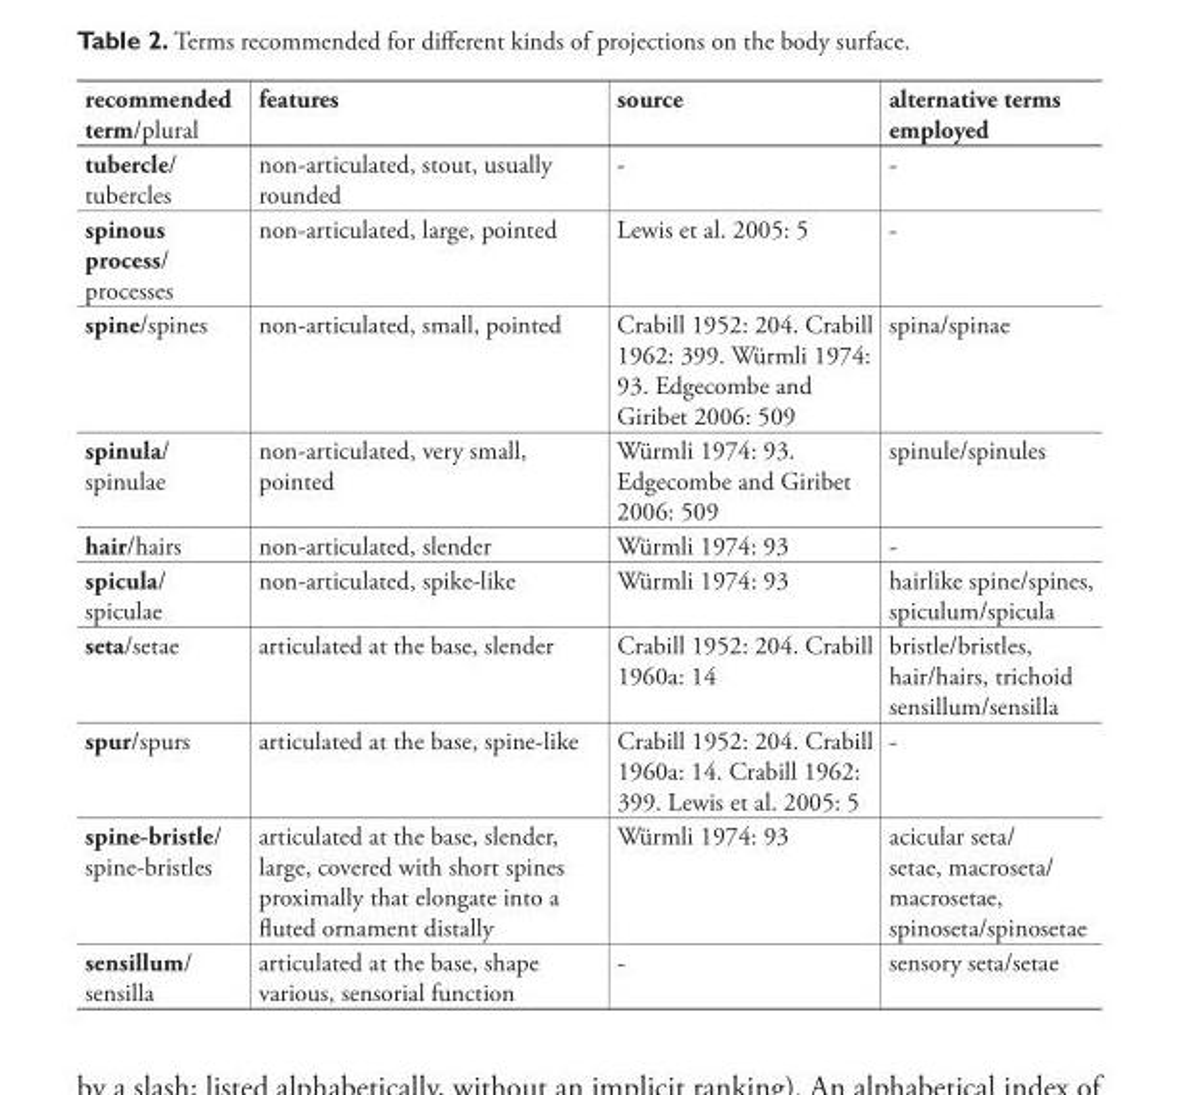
<table><thead><tr><td>recommended term/plural</td><td>features</td><td>source</td><td>alternative terms employed</td></tr></thead><tbody><tr><td>tubercle/ tubercles</td><td>non-articulated, stout, usually rounded</td><td>-</td><td>-</td></tr><tr><td>spinous process/ processes</td><td>non-articulated, large, pointed</td><td>Lewis et al. 2005: 5</td><td>-</td></tr><tr><td>spine/spines</td><td>non-articulated, small, pointed</td><td>Crabill 1952: 204. Crabill 1962: 399. Würmli 1974: 93. Edgecombe and Giribet 2006: 509</td><td>spina/spinae</td></tr><tr><td>spinula/ spinulae</td><td>non-articulated, very small, pointed</td><td>Würmli 1974: 93. Edgecombe and Giribet 2006: 509</td><td>spinule/spinules</td></tr><tr><td>hair/hairs</td><td>non-articulated, slender</td><td>Würmli 1974: 93</td><td>-</td></tr><tr><td>spicula/ spiculae</td><td>non-articulated, spike-like</td><td>Würmli 1974: 93</td><td>hairlike spine/spines, spiculum/spicula</td></tr><tr><td>seta/setae</td><td>articulated at the base, slender</td><td>Crabill 1952: 204. Crabill 1960a: 14</td><td>bristle/bristles, hair/hairs, trichoid sensillum/sensilla</td></tr><tr><td>spur/spurs</td><td>articulated at the base, spine-like</td><td>Crabill 1952: 204. Crabill 1960a: 14. Crabill 1962: 399. Lewis et al. 2005: 5</td><td>-</td></tr><tr><td>spine-bristle/ spine-bristles</td><td>articulated at the base, slender, large, covered with short spines proximally that elongate into a fl uted ornament distally</td><td>Würmli 1974: 93</td><td>acicular seta/ setae, macroseta/ macrosetae, spinoseta/spinosetae</td></tr><tr><td>sensillum/ sensilla</td><td>articulated at the base, shape various, sensorial function</td><td>-</td><td>sensory seta/setae</td></tr></tbody></table>